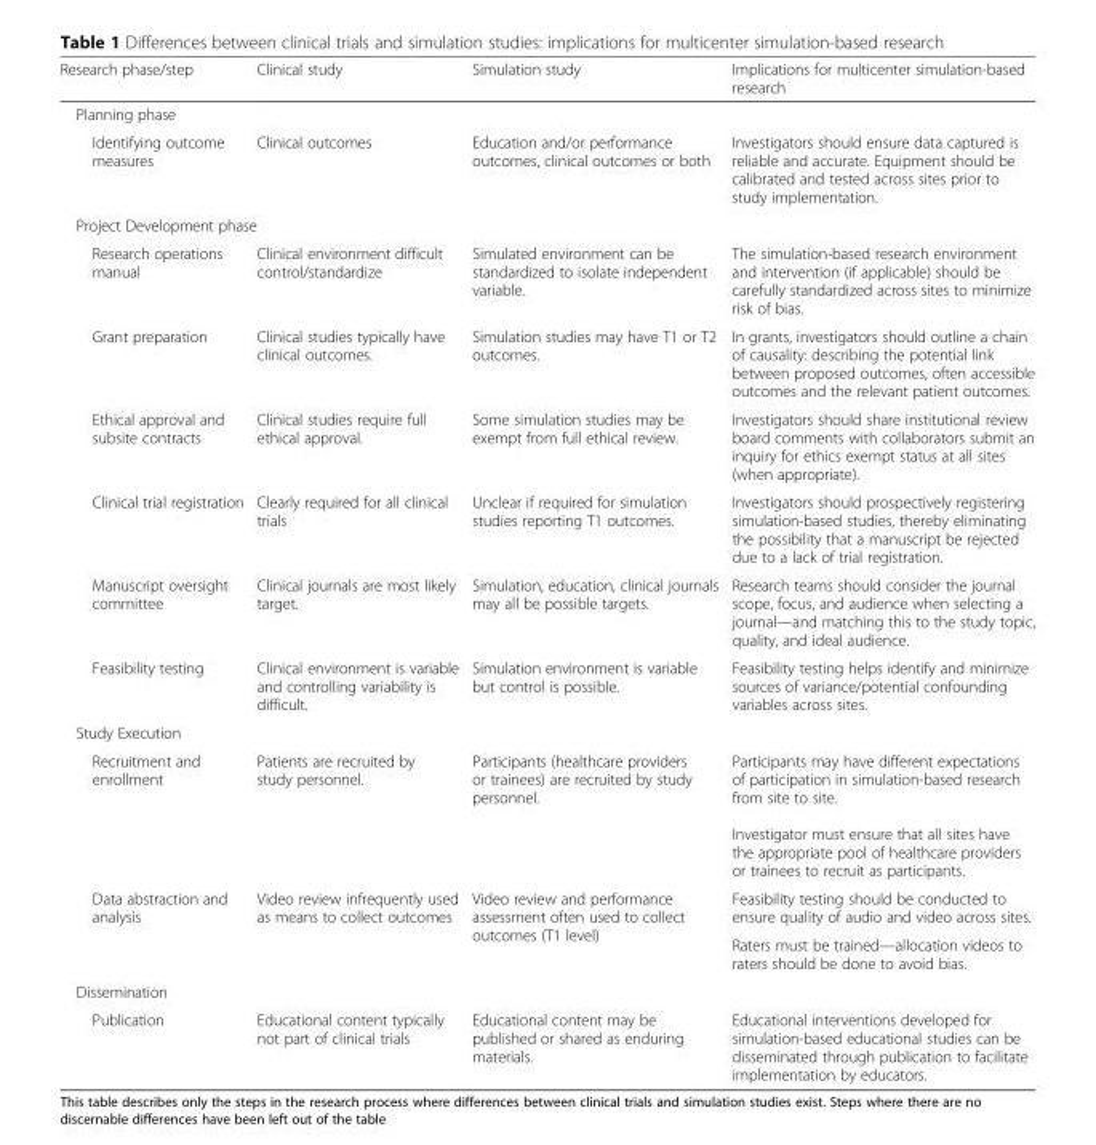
<table><thead><tr><td>Research phase/step</td><td>Clinical study</td><td>Simulation study</td><td>Implications for multicenter simulation-based research</td></tr></thead><tbody><tr><td colspan="4">Planning phase</td></tr><tr><td>Identifying outcome measures</td><td>Clinical outcomes</td><td>Education and/or performance outcomes, clinical outcomes or both</td><td>Investigators should ensure data captured is reliable and accurate. Equipment should be calibrated and tested across sites prior to study implementation.</td></tr><tr><td colspan="4">Project Development phase</td></tr><tr><td>Research operations manual</td><td>Clinical environment difficult control/standardize</td><td>Simulated environment can be standardized to isolate independent variable.</td><td>The simulation-based research environment and intervention (if applicable) should be carefully standardized across sites to minimize risk of bias.</td></tr><tr><td>Grant preparation</td><td>Clinical studies typically have clinical outcomes.</td><td>Simulation studies may have T1 or T2 outcomes.</td><td>In grants, investigators should outline a chain of causality: describing the potential link between proposed outcomes, often accessible outcomes and the relevant patient outcomes.</td></tr><tr><td>Ethical approval and subsite contracts</td><td>Clinical studies require full ethical approval.</td><td>Some simulation studies may be exempt from full ethical review.</td><td>Investigators should share institutional review board comments with collaborators submit an inquiry for ethics exempt status at all sites (when appropriate).</td></tr><tr><td>Clinical trial registration</td><td>Clearly required for all clinical trials</td><td>Unclear if required for simulation studies reporting T1 outcomes.</td><td>Investigators should prospectively registering simulation-based studies, thereby eliminating the possibility that a manuscript be rejected due to a lack of trial registration.</td></tr><tr><td>Manuscript oversight committee</td><td>Clinical journals are most likely target.</td><td>Simulation, education, clinical journals may all be possible targets.</td><td>Research teams should consider the journal scope, focus, and audience when selecting a journal—and matching this to the study topic, quality, and ideal audience.</td></tr><tr><td>Feasibility testing</td><td>Clinical environment is variable and controlling variability is difficult.</td><td>Simulation environment is variable but control is possible.</td><td>Feasibility testing helps identify and minimize sources of variance/potential confounding variables across sites.</td></tr><tr><td colspan="4">Study Execution</td></tr><tr><td>Recruitment and enrollment</td><td>Patients are recruited by study personnel.</td><td>Participants (healthcare providers or trainees) are recruited by study personnel.</td><td>Participants may have different expectations of participation in simulation-based research from site to site. Investigator must ensure that all sites have the appropriate pool of healthcare providers or trainees to recruit as participants.</td></tr><tr><td rowspan="2">Data abstraction and analysis</td><td rowspan="2">Video review infrequently used as means to collect outcomes</td><td rowspan="2">Video review and performance assessment often used to collect outcomes (T1 level)</td><td>Feasibility testing should be conducted to ensure quality of audio and video across sites.</td></tr><tr><td>Raters must be trained—allocation videos to raters should be done to avoid bias.</td></tr><tr><td colspan="4">Dissemination</td></tr><tr><td>Publication</td><td>Educational content typically not part of clinical trials</td><td>Educational content may be published or shared as enduring materials.</td><td>Educational interventions developed for simulation-based educational studies can be disseminated through publication to facilitate implementation by educators.</td></tr></tbody></table>